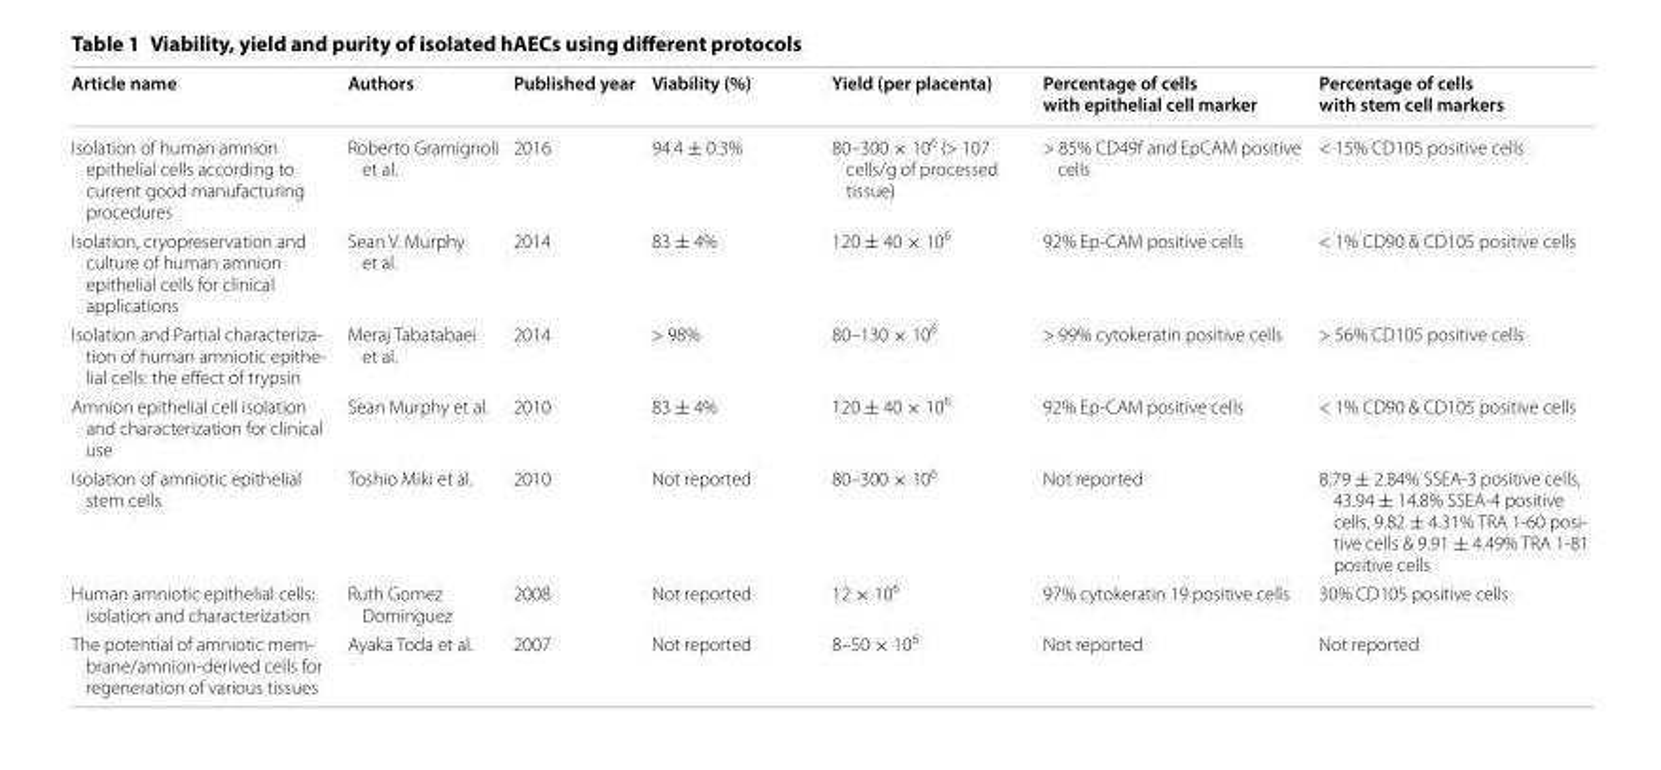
<table><thead><tr><td>Article name</td><td>Authors</td><td>Published year</td><td>Viability (%)</td><td>Yield (per placenta)</td><td>Percentage of cells with epithelial cell marker</td><td>Percentage of cells with stem cell markers</td></tr></thead><tbody><tr><td>Isolation of human amnion epithelial cells according to current good manufacturing procedures</td><td>Roberto Gramignoli et al.</td><td>2016</td><td>94.4 ± 0.3%</td><td>80–300 × 10<sup>6</sup> (&gt; 107 cells/g of processed tissue)</td><td>&gt; 85% CD49f and EpCAM positive cells</td><td>&lt; 15% CD105 positive cells</td></tr><tr><td>Isolation, cryopreservation and culture of human amnion epithelial cells for clinical applications</td><td>Sean V. Murphy et al.</td><td>2014</td><td>83 ± 4%</td><td>120 ± 40 × 10<sup>6</sup></td><td>92% Ep-CAM positive cells</td><td>&lt; 1% CD90 &amp; CD105 positive cells</td></tr><tr><td>Isolation and Partial characteriza- tion of human amniotic epithe- lial cells: the effect of trypsin</td><td>Meraj Tabatabaei et al.</td><td>2014</td><td>&gt; 98%</td><td>80–130 × 10<sup>6</sup></td><td>&gt; 99% cytokeratin positive cells</td><td>&gt; 56% CD105 positive cells</td></tr><tr><td>Amnion epithelial cell isolation and characterization for clinical use</td><td>Sean Murphy et al.</td><td>2010</td><td>83 ± 4%</td><td>120 ± 40 × 10<sup>6</sup></td><td>92% Ep-CAM positive cells</td><td>&lt; 1% CD90 &amp; CD105 positive cells</td></tr><tr><td>Isolation of amniotic epithelial stem cells</td><td>Toshio Miki et al.</td><td>2010</td><td>Not reported</td><td>80–300 × 10<sup>6</sup></td><td>Not reported</td><td>8.79 ± 2.84% SSEA-3 positive cells, 43.94 ± 14.8% SSEA-4 positive cells, 9.82 ± 4.31% TRA 1-60 posi- tive cells &amp; 9.91 ± 4.49% TRA 1-81 positive cells</td></tr><tr><td>Human amniotic epithelial cells: isolation and characterization</td><td>Ruth Gomez Dominguez</td><td>2008</td><td>Not reported</td><td>12 × 10<sup>6</sup></td><td>97% cytokeratin 19 positive cells</td><td>30% CD105 positive cells</td></tr><tr><td>The potential of amniotic mem- brane/amnion-derived cells for regeneration of various tissues</td><td>Ayaka Toda et al.</td><td>2007</td><td>Not reported</td><td>8–50 × 10<sup>6</sup></td><td>Not reported</td><td>Not reported</td></tr></tbody></table>